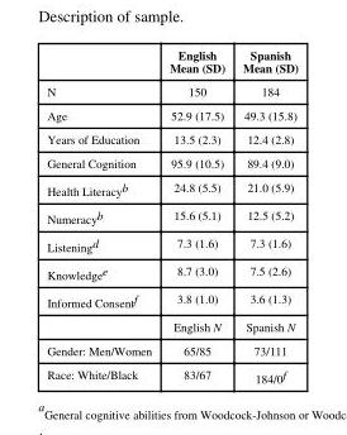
<table><thead><tr><td></td><td>English Mean (SD)</td><td>Spanish Mean (SD)</td></tr></thead><tbody><tr><td>N</td><td>150</td><td>184</td></tr><tr><td>Age</td><td>52.9 (17.5)</td><td>49.3 (15.8)</td></tr><tr><td>Years of Education</td><td>13.5 (2.3)</td><td>12.4 (2.8)</td></tr><tr><td>General Cognition</td><td>95.9 (10.5)</td><td>89.4 (9.0)</td></tr><tr><td>Health Literacy<sup>b</sup></td><td>24.8 (5.5)</td><td>21.0 (5.9)</td></tr><tr><td>Numeracy<sup>b</sup></td><td>15.6 (5.1)</td><td>12.5 (5.2)</td></tr><tr><td>Listening<sup>d</sup></td><td>7.3 (1.6)</td><td>7.3 (1.6)</td></tr><tr><td>Knowledge<sup>e</sup></td><td>8.7 (3.0)</td><td>7.5 (2.6)</td></tr><tr><td rowspan="2">Informed Consent<sup>f</sup></td><td>3.8 (1.0)</td><td>3.6 (1.3)</td></tr><tr><td>English N</td><td>Spanish N</td></tr><tr><td>Gender: Men/Women</td><td>65/85</td><td>73/111</td></tr><tr><td>Race: White/Black</td><td>83/67</td><td>184/0<sup>f</sup></td></tr></tbody></table>